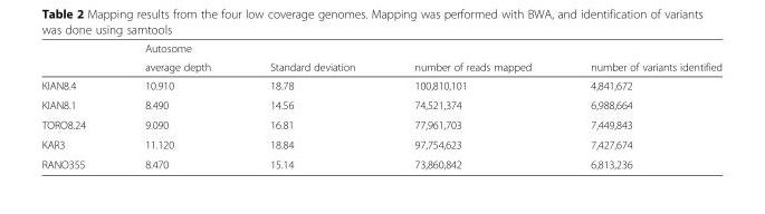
<table><thead><tr><td rowspan="2"></td><td rowspan="2">Autosome average depth</td><td rowspan="2">Standard deviation</td><td rowspan="2">number of reads mapped</td><td rowspan="2">number of variants identified</td></tr><tr></tr></thead><tbody><tr><td>KIAN8.4</td><td>10.910</td><td>18.78</td><td>100,810,101</td><td>4,841,672</td></tr><tr><td>KIAN8.1</td><td>8.490</td><td>14.56</td><td>74,521,374</td><td>6,988,664</td></tr><tr><td>TORO8.24</td><td>9.090</td><td>16.81</td><td>77,961,703</td><td>7,449,843</td></tr><tr><td>KAR3</td><td>11.120</td><td>18.84</td><td>97,754,623</td><td>7,427,674</td></tr><tr><td>RANO355</td><td>8.470</td><td>15.14</td><td>73,860,842</td><td>6,813,236</td></tr></tbody></table>